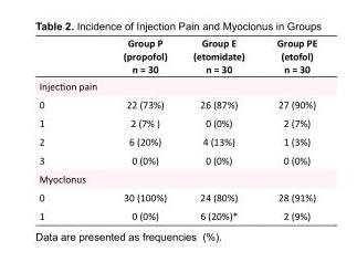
<table><thead><tr><td></td><td>Group P (propofol) n = 30</td><td>Group E (etomidate) n = 30</td><td>Group PE (etofol) n = 30</td></tr></thead><tbody><tr><td colspan="4">Injection pain</td></tr><tr><td>0</td><td>22 (73%)</td><td>26 (87%)</td><td>27 (90%)</td></tr><tr><td>1</td><td>2 (7% )</td><td>0 (0%)</td><td>2 (7%)</td></tr><tr><td>2</td><td>6 (20%)</td><td>4 (13%)</td><td>1 (3%)</td></tr><tr><td>3</td><td>0 (0%)</td><td>0 (0%)</td><td>0 (0%)</td></tr><tr><td colspan="4">Myoclonus</td></tr><tr><td>0</td><td>30 (100%)</td><td>24 (80%)</td><td>28 (91%)</td></tr><tr><td>1</td><td>0 (0%)</td><td>6 (20%)*</td><td>2 (9%)</td></tr></tbody></table>